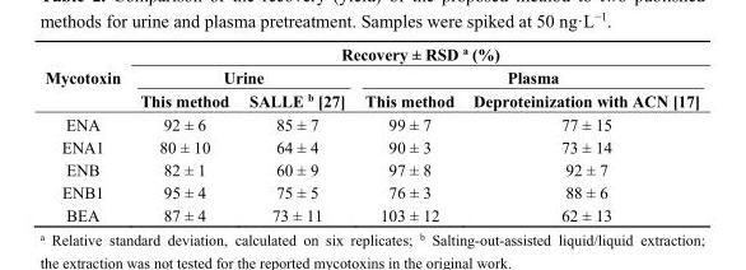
<table><thead><tr><td rowspan="3">Mycotoxin</td><td colspan="4">Recovery ± RSD <sup>a</sup> (%)</td></tr><tr><td colspan="2">Urine</td><td colspan="2">Plasma</td></tr><tr><td>This method</td><td>SALLE <sup>b</sup> [27]</td><td>This method</td><td>Deproteinization with ACN [17]</td></tr></thead><tbody><tr><td>ENA</td><td>92 ± 6</td><td>85 ± 7</td><td>99 ± 7</td><td>77 ± 15</td></tr><tr><td>ENA1</td><td>80 ± 10</td><td>64 ± 4</td><td>90 ± 3</td><td>73 ± 14</td></tr><tr><td>ENB</td><td>82 ± 1</td><td>60 ± 9</td><td>97 ± 8</td><td>92 ± 7</td></tr><tr><td>ENB1</td><td>95 ± 4</td><td>75 ± 5</td><td>76 ± 3</td><td>88 ± 6</td></tr><tr><td>BEA</td><td>87 ± 4</td><td>73 ± 11</td><td>103 ± 12</td><td>62 ± 13</td></tr></tbody></table>